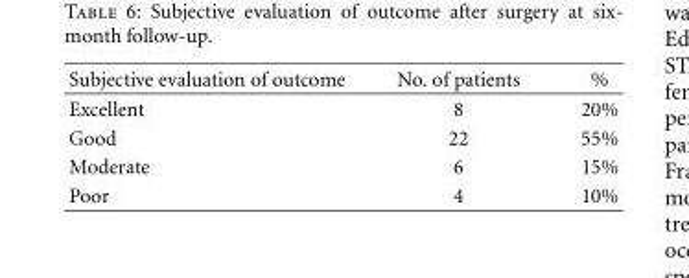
<table><thead><tr><td>Subjective evaluation of outcome</td><td>No. of patients</td><td>%</td></tr></thead><tbody><tr><td>Excellent</td><td>8</td><td>20%</td></tr><tr><td>Good</td><td>22</td><td>55%</td></tr><tr><td>Moderate</td><td>6</td><td>15%</td></tr><tr><td>Poor</td><td>4</td><td>10%</td></tr></tbody></table>